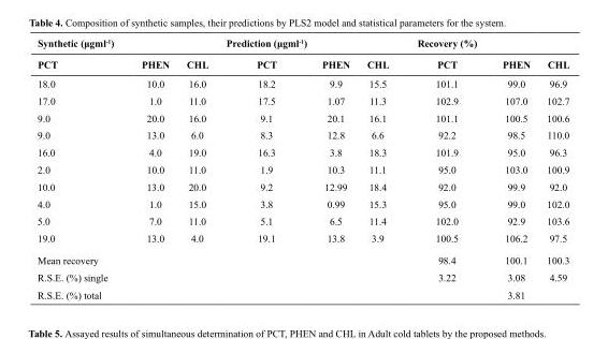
<table><thead><tr><td rowspan="2">Synthetic (μgml-1) PCT</td><td colspan="4">Prediction (μgml-1)</td><td colspan="4">Recovery (%)</td></tr><tr><td>PHEN</td><td>CHL</td><td>PCT</td><td>PHEN</td><td>CHL</td><td>PCT</td><td>PHEN</td><td>CHL</td></tr></thead><tbody><tr><td>18.0</td><td>10.0</td><td>16.0</td><td>18.2</td><td>9.9</td><td>15.5</td><td>101.1</td><td>99.0</td><td>96.9</td></tr><tr><td>17.0</td><td>1.0</td><td>11.0</td><td>17.5</td><td>1.07</td><td>11.3</td><td>102.9</td><td>107.0</td><td>102.7</td></tr><tr><td>9.0</td><td>20.0</td><td>16.0</td><td>9.1</td><td>20.1</td><td>16.1</td><td>101.1</td><td>100.5</td><td>100.6</td></tr><tr><td>9.0</td><td>13.0</td><td>6.0</td><td>8.3</td><td>12.8</td><td>6.6</td><td>92.2</td><td>98.5</td><td>110.0</td></tr><tr><td>16.0</td><td>4.0</td><td>19.0</td><td>16.3</td><td>3.8</td><td>18.3</td><td>101.9</td><td>95.0</td><td>96.3</td></tr><tr><td>2.0</td><td>10.0</td><td>11.0</td><td>1.9</td><td>10.3</td><td>11.1</td><td>95.0</td><td>103.0</td><td>100.9</td></tr><tr><td>10.0</td><td>13.0</td><td>20.0</td><td>9.2</td><td>12.99</td><td>18.4</td><td>92.0</td><td>99.9</td><td>92.0</td></tr><tr><td>4.0</td><td>1.0</td><td>15.0</td><td>3.8</td><td>0.99</td><td>15.3</td><td>95.0</td><td>99.0</td><td>102.0</td></tr><tr><td>5.0</td><td>7.0</td><td>11.0</td><td>5.1</td><td>6.5</td><td>11.4</td><td>102.0</td><td>92.9</td><td>103.6</td></tr><tr><td>19.0</td><td>13.0</td><td>4.0</td><td>19.1</td><td>13.8</td><td>3.9</td><td>100.5</td><td>106.2</td><td>97.5</td></tr><tr><td>Mean recovery</td><td></td><td></td><td></td><td></td><td></td><td>98.4</td><td>100.1</td><td>100.3</td></tr><tr><td>R.S.E. (%) single</td><td></td><td></td><td></td><td></td><td></td><td>3.22</td><td>3.08</td><td>4.59</td></tr><tr><td>R.S.E. (%) total</td><td></td><td></td><td></td><td></td><td></td><td></td><td>3.81</td><td></td></tr></tbody></table>